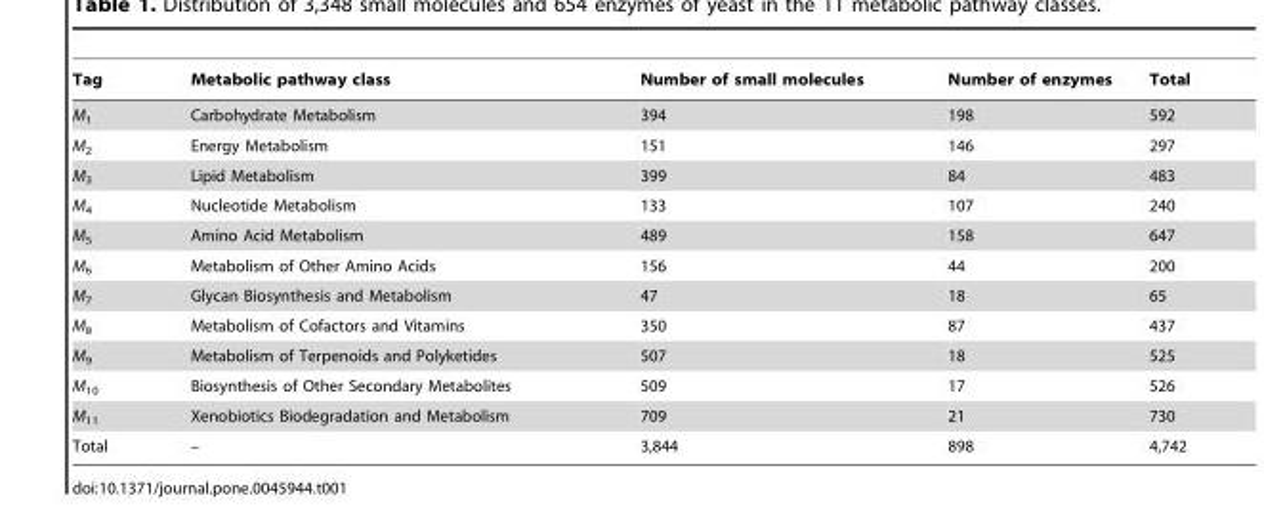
<table><thead><tr><td>Tag</td><td>Metabolic pathway class</td><td>Number of small molecules</td><td>Number of enzymes</td><td>Total</td></tr></thead><tbody><tr><td>M<sub>1</sub></td><td>Carbohydrate Metabolism</td><td>394</td><td>198</td><td>592</td></tr><tr><td>M<sub>2</sub></td><td>Energy Metabolism</td><td>151</td><td>146</td><td>297</td></tr><tr><td>M<sub>3</sub></td><td>Lipid Metabolism</td><td>399</td><td>84</td><td>483</td></tr><tr><td>M<sub>4</sub></td><td>Nucleotide Metabolism</td><td>133</td><td>107</td><td>240</td></tr><tr><td>M<sub>5</sub></td><td>Amino Acid Metabolism</td><td>489</td><td>158</td><td>647</td></tr><tr><td>M<sub>6</sub></td><td>Metabolism of Other Amino Acids</td><td>156</td><td>44</td><td>200</td></tr><tr><td>M<sub>7</sub></td><td>Glycan Biosynthesis and Metabolism</td><td>47</td><td>18</td><td>65</td></tr><tr><td>M<sub>8</sub></td><td>Metabolism of Cofactors and Vitamins</td><td>350</td><td>87</td><td>437</td></tr><tr><td>M<sub>9</sub></td><td>Metabolism of Terpenoids and Polyketides</td><td>507</td><td>18</td><td>525</td></tr><tr><td>M<sub>10</sub></td><td>Biosynthesis of Other Secondary Metabolites</td><td>509</td><td>17</td><td>526</td></tr><tr><td>M<sub>11</sub></td><td>Xenobiotics Biodegradation and Metabolism</td><td>709</td><td>21</td><td>730</td></tr><tr><td>Total</td><td>–</td><td>3,844</td><td>898</td><td>4,742</td></tr></tbody></table>